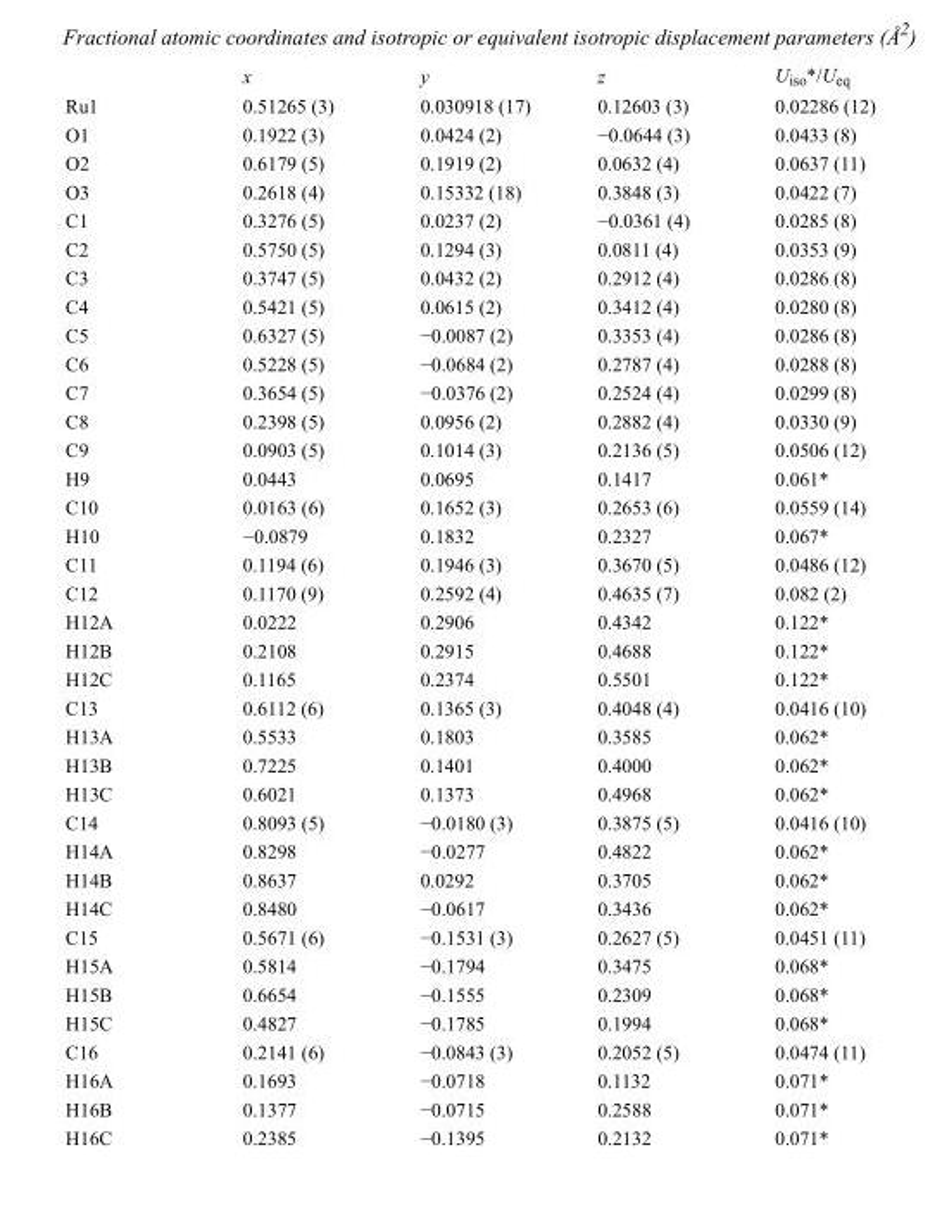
<table><thead><tr><td></td><td>x</td><td>y</td><td>z</td><td>U<sub>iso</sub>*/U<sub>eq</sub></td></tr></thead><tbody><tr><td>Ru1</td><td>0.51265 (3)</td><td>0.030918 (17)</td><td>0.12603 (3)</td><td>0.02286 (12)</td></tr><tr><td>O1</td><td>0.1922 (3)</td><td>0.0424 (2)</td><td>−0.0644 (3)</td><td>0.0433 (8)</td></tr><tr><td>O2</td><td>0.6179 (5)</td><td>0.1919 (2)</td><td>0.0632 (4)</td><td>0.0637 (11)</td></tr><tr><td>O3</td><td>0.2618 (4)</td><td>0.15332 (18)</td><td>0.3848 (3)</td><td>0.0422 (7)</td></tr><tr><td>C1</td><td>0.3276 (5)</td><td>0.0237 (2)</td><td>−0.0361 (4)</td><td>0.0285 (8)</td></tr><tr><td>C2</td><td>0.5750 (5)</td><td>0.1294 (3)</td><td>0.0811 (4)</td><td>0.0353 (9)</td></tr><tr><td>C3</td><td>0.3747 (5)</td><td>0.0432 (2)</td><td>0.2912 (4)</td><td>0.0286 (8)</td></tr><tr><td>C4</td><td>0.5421 (5)</td><td>0.0615 (2)</td><td>0.3412 (4)</td><td>0.0280 (8)</td></tr><tr><td>C5</td><td>0.6327 (5)</td><td>−0.0087 (2)</td><td>0.3353 (4)</td><td>0.0286 (8)</td></tr><tr><td>C6</td><td>0.5228 (5)</td><td>−0.0684 (2)</td><td>0.2787 (4)</td><td>0.0288 (8)</td></tr><tr><td>C7</td><td>0.3654 (5)</td><td>−0.0376 (2)</td><td>0.2524 (4)</td><td>0.0299 (8)</td></tr><tr><td>C8</td><td>0.2398 (5)</td><td>0.0956 (2)</td><td>0.2882 (4)</td><td>0.0330 (9)</td></tr><tr><td>C9</td><td>0.0903 (5)</td><td>0.1014 (3)</td><td>0.2136 (5)</td><td>0.0506 (12)</td></tr><tr><td>H9</td><td>0.0443</td><td>0.0695</td><td>0.1417</td><td>0.061*</td></tr><tr><td>C10</td><td>0.0163 (6)</td><td>0.1652 (3)</td><td>0.2653 (6)</td><td>0.0559 (14)</td></tr><tr><td>H10</td><td>−0.0879</td><td>0.1832</td><td>0.2327</td><td>0.067*</td></tr><tr><td>C11</td><td>0.1194 (6)</td><td>0.1946 (3)</td><td>0.3670 (5)</td><td>0.0486 (12)</td></tr><tr><td>C12</td><td>0.1170 (9)</td><td>0.2592 (4)</td><td>0.4635 (7)</td><td>0.082 (2)</td></tr><tr><td>H12A</td><td>0.0222</td><td>0.2906</td><td>0.4342</td><td>0.122*</td></tr><tr><td>H12B</td><td>0.2108</td><td>0.2915</td><td>0.4688</td><td>0.122*</td></tr><tr><td>H12C</td><td>0.1165</td><td>0.2374</td><td>0.5501</td><td>0.122*</td></tr><tr><td>C13</td><td>0.6112 (6)</td><td>0.1365 (3)</td><td>0.4048 (4)</td><td>0.0416 (10)</td></tr><tr><td>H13A</td><td>0.5533</td><td>0.1803</td><td>0.3585</td><td>0.062*</td></tr><tr><td>H13B</td><td>0.7225</td><td>0.1401</td><td>0.4000</td><td>0.062*</td></tr><tr><td>H13C</td><td>0.6021</td><td>0.1373</td><td>0.4968</td><td>0.062*</td></tr><tr><td>C14</td><td>0.8093 (5)</td><td>−0.0180 (3)</td><td>0.3875 (5)</td><td>0.0416 (10)</td></tr><tr><td>H14A</td><td>0.8298</td><td>−0.0277</td><td>0.4822</td><td>0.062*</td></tr><tr><td>H14B</td><td>0.8637</td><td>0.0292</td><td>0.3705</td><td>0.062*</td></tr><tr><td>H14C</td><td>0.8480</td><td>−0.0617</td><td>0.3436</td><td>0.062*</td></tr><tr><td>C15</td><td>0.5671 (6)</td><td>−0.1531 (3)</td><td>0.2627 (5)</td><td>0.0451 (11)</td></tr><tr><td>H15A</td><td>0.5814</td><td>−0.1794</td><td>0.3475</td><td>0.068*</td></tr><tr><td>H15B</td><td>0.6654</td><td>−0.1555</td><td>0.2309</td><td>0.068*</td></tr><tr><td>H15C</td><td>0.4827</td><td>−0.1785</td><td>0.1994</td><td>0.068*</td></tr><tr><td>C16</td><td>0.2141 (6)</td><td>−0.0843 (3)</td><td>0.2052 (5)</td><td>0.0474 (11)</td></tr><tr><td>H16A</td><td>0.1693</td><td>−0.0718</td><td>0.1132</td><td>0.071*</td></tr><tr><td>H16B</td><td>0.1377</td><td>−0.0715</td><td>0.2588</td><td>0.071*</td></tr><tr><td>H16C</td><td>0.2385</td><td>−0.1395</td><td>0.2132</td><td>0.071*</td></tr></tbody></table>